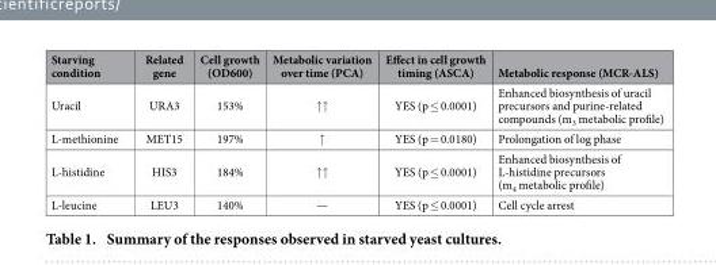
<table><thead><tr><td>Starving condition</td><td>Related gene</td><td>Cell growth (OD600)</td><td>Metabolic variation over time (PCA)</td><td>Effect in cell growth timing (ASCA)</td><td>Metabolic response (MCR-ALS)</td></tr></thead><tbody><tr><td>Uracil</td><td>URA3</td><td>153%</td><td>↑ ↑</td><td>YES (p ≤ 0.0001)</td><td>Enhanced biosynthesis of uracil precursors and purine-related compounds (m<sub>3</sub> metabolic profile)</td></tr><tr><td>L-methionine</td><td>MET15</td><td>197%</td><td>↑</td><td>YES (p = 0.0180)</td><td>Prolongation of log phase</td></tr><tr><td>L-histidine</td><td>HIS3</td><td>184%</td><td>↑ ↑</td><td>YES (p ≤ 0.0001)</td><td>Enhanced biosynthesis of L-histidine precursors (m<sub>4</sub> metabolic profile)</td></tr><tr><td>L-leucine</td><td>LEU3</td><td>140%</td><td>—</td><td>YES (p ≤ 0.0001)</td><td>Cell cycle arrest</td></tr></tbody></table>